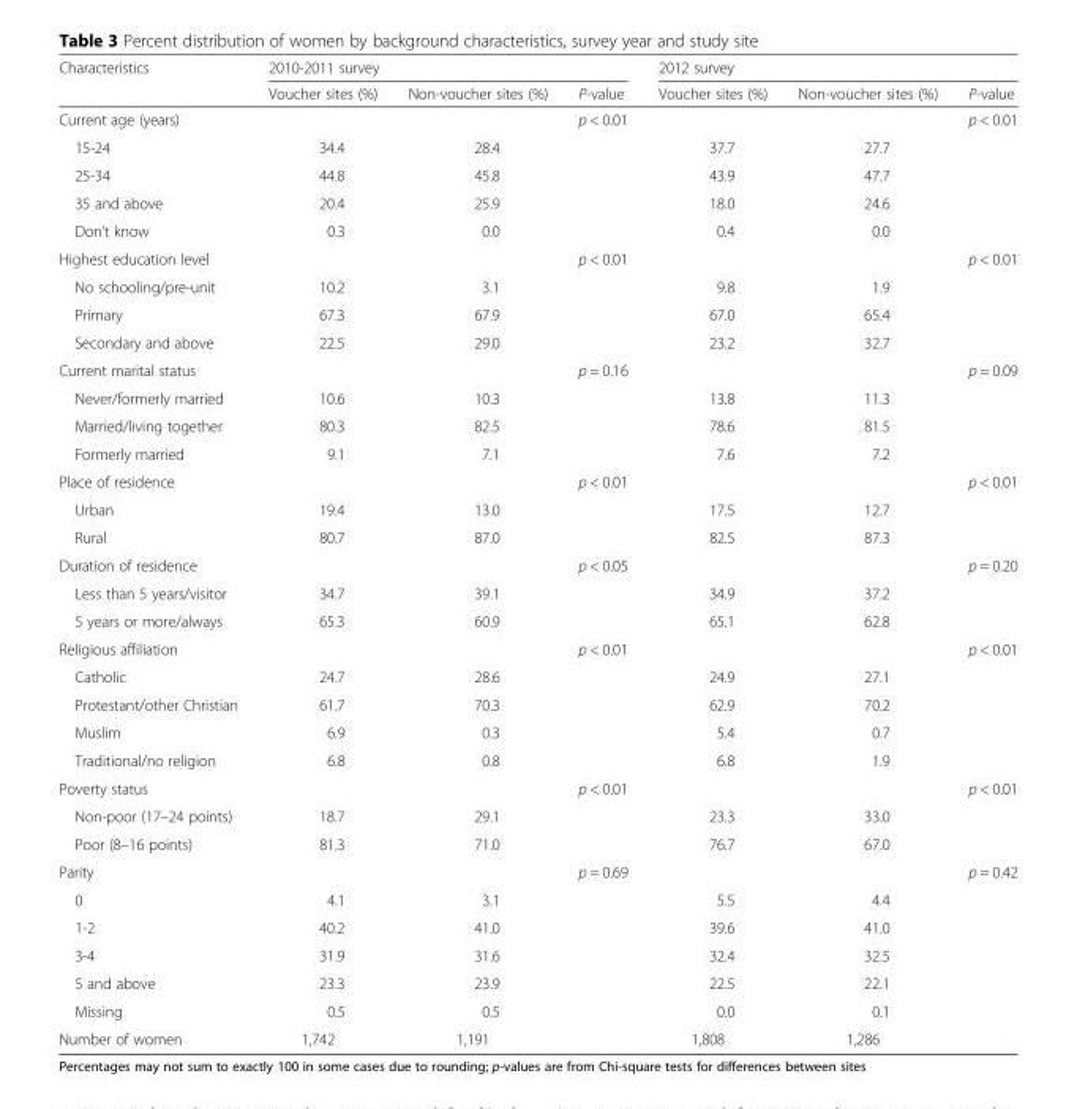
<table><thead><tr><td rowspan="2">Characteristics</td><td colspan="3">2010-2011 survey</td><td colspan="3">2012 survey</td></tr><tr><td>Voucher sites (%)</td><td>Non-voucher sites (%)</td><td>P-value</td><td>Voucher sites (%)</td><td>Non-voucher sites (%)</td><td>P-value</td></tr></thead><tbody><tr><td>Current age (years)</td><td></td><td></td><td>p &lt; 0.01</td><td></td><td></td><td>p &lt; 0.01</td></tr><tr><td>15-24</td><td>34.4</td><td>28.4</td><td></td><td>37.7</td><td>27.7</td><td></td></tr><tr><td>25-34</td><td>44.8</td><td>45.8</td><td></td><td>43.9</td><td>47.7</td><td></td></tr><tr><td>35 and above</td><td>20.4</td><td>25.9</td><td></td><td>18.0</td><td>24.6</td><td></td></tr><tr><td>Don’t know</td><td>0.3</td><td>0.0</td><td></td><td>0.4</td><td>0.0</td><td></td></tr><tr><td>Highest education level</td><td></td><td></td><td>p &lt; 0.01</td><td></td><td></td><td>p &lt; 0.01</td></tr><tr><td>No schooling/pre-unit</td><td>10.2</td><td>3.1</td><td></td><td>9.8</td><td>1.9</td><td></td></tr><tr><td>Primary</td><td>67.3</td><td>67.9</td><td></td><td>67.0</td><td>65.4</td><td></td></tr><tr><td>Secondary and above</td><td>22.5</td><td>29.0</td><td></td><td>23.2</td><td>32.7</td><td></td></tr><tr><td>Current marital status</td><td></td><td></td><td>p = 0.16</td><td></td><td></td><td>p = 0.09</td></tr><tr><td>Never/formerly married</td><td>10.6</td><td>10.3</td><td></td><td>13.8</td><td>11.3</td><td></td></tr><tr><td>Married/living together</td><td>80.3</td><td>82.5</td><td></td><td>78.6</td><td>81.5</td><td></td></tr><tr><td>Formerly married</td><td>9.1</td><td>7.1</td><td></td><td>7.6</td><td>7.2</td><td></td></tr><tr><td>Place of residence</td><td></td><td></td><td>p &lt; 0.01</td><td></td><td></td><td>p &lt; 0.01</td></tr><tr><td>Urban</td><td>19.4</td><td>13.0</td><td></td><td>17.5</td><td>12.7</td><td></td></tr><tr><td>Rural</td><td>80.7</td><td>87.0</td><td></td><td>82.5</td><td>87.3</td><td></td></tr><tr><td>Duration of residence</td><td></td><td></td><td>p &lt; 0.05</td><td></td><td></td><td>p = 0.20</td></tr><tr><td>Less than 5 years/visitor</td><td>34.7</td><td>39.1</td><td></td><td>34.9</td><td>37.2</td><td></td></tr><tr><td>5 years or more/always</td><td>65.3</td><td>60.9</td><td></td><td>65.1</td><td>62.8</td><td></td></tr><tr><td>Religious affiliation</td><td></td><td></td><td>p &lt; 0.01</td><td></td><td></td><td>p &lt; 0.01</td></tr><tr><td>Catholic</td><td>24.7</td><td>28.6</td><td></td><td>24.9</td><td>27.1</td><td></td></tr><tr><td>Protestant/other Christian</td><td>61.7</td><td>70.3</td><td></td><td>62.9</td><td>70.2</td><td></td></tr><tr><td>Muslim</td><td>6.9</td><td>0.3</td><td></td><td>5.4</td><td>0.7</td><td></td></tr><tr><td>Traditional/no religion</td><td>6.8</td><td>0.8</td><td></td><td>6.8</td><td>1.9</td><td></td></tr><tr><td>Poverty status</td><td></td><td></td><td>p &lt; 0.01</td><td></td><td></td><td>p &lt; 0.01</td></tr><tr><td>Non-poor (17–24 points)</td><td>18.7</td><td>29.1</td><td></td><td>23.3</td><td>33.0</td><td></td></tr><tr><td>Poor (8–16 points)</td><td>81.3</td><td>71.0</td><td></td><td>76.7</td><td>67.0</td><td></td></tr><tr><td>Parity</td><td></td><td></td><td>p = 0.69</td><td></td><td></td><td>p = 0.42</td></tr><tr><td>0</td><td>4.1</td><td>3.1</td><td></td><td>5.5</td><td>4.4</td><td></td></tr><tr><td>1-2</td><td>40.2</td><td>41.0</td><td></td><td>39.6</td><td>41.0</td><td></td></tr><tr><td>3-4</td><td>31.9</td><td>31.6</td><td></td><td>32.4</td><td>32.5</td><td></td></tr><tr><td>5 and above</td><td>23.3</td><td>23.9</td><td></td><td>22.5</td><td>22.1</td><td></td></tr><tr><td>Missing</td><td>0.5</td><td>0.5</td><td></td><td>0.0</td><td>0.1</td><td></td></tr><tr><td>Number of women</td><td>1,742</td><td>1,191</td><td></td><td>1,808</td><td>1,286</td><td></td></tr></tbody></table>